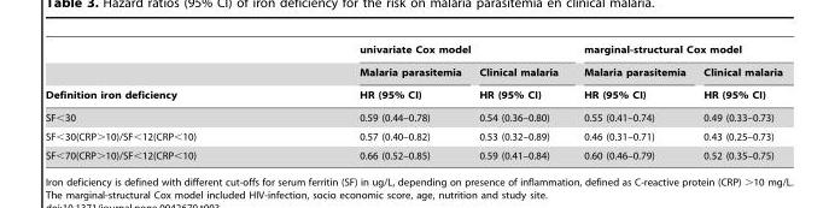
<table><thead><tr><td rowspan="3">Definition iron deficiency</td><td colspan="2">univariate Cox model</td><td colspan="2">marginal-structural Cox model</td></tr><tr><td rowspan="2">Malaria parasitemia HR (95% CI)</td><td rowspan="2">Clinical malaria HR (95% CI)</td><td rowspan="2">Malaria parasitemia HR (95% CI)</td><td rowspan="2">Clinical malaria HR (95% CI)</td></tr><tr></tr></thead><tbody><tr><td>SF&lt;30</td><td>0.59 (0.44–0.78)</td><td>0.54 (0.36–0.80)</td><td>0.55 (0.41–0.74)</td><td>0.49 (0.33–0.73)</td></tr><tr><td>SF&lt;30(CRP&gt;10)/SF&lt;12(CRP&lt;10)</td><td>0.57 (0.40–0.82)</td><td>0.53 (0.32–0.89)</td><td>0.46 (0.31–0.71)</td><td>0.43 (0.25–0.73)</td></tr><tr><td>SF&lt;70(CRP&gt;10)/SF&lt;12(CRP&lt;10)</td><td>0.66 (0.52–0.85)</td><td>0.59 (0.41–0.84)</td><td>0.60 (0.46–0.79)</td><td>0.52 (0.35–0.75)</td></tr></tbody></table>